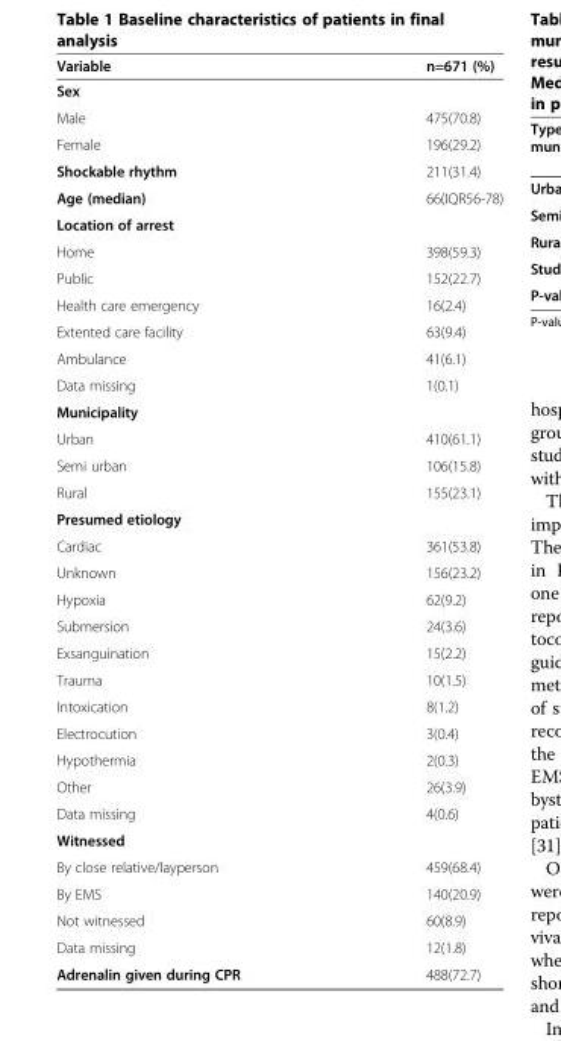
<table><thead><tr><td>Variable</td><td>n=671 (%)</td></tr></thead><tbody><tr><td colspan="2">Sex</td></tr><tr><td>Male</td><td>475(70.8)</td></tr><tr><td>Female</td><td>196(29.2)</td></tr><tr><td>Shockable rhythm</td><td>211(31.4)</td></tr><tr><td>Age (median)</td><td>66(IQR56-78)</td></tr><tr><td colspan="2">Location of arrest</td></tr><tr><td>Home</td><td>398(59.3)</td></tr><tr><td>Public</td><td>152(22.7)</td></tr><tr><td>Health care emergency</td><td>16(2.4)</td></tr><tr><td>Extented care facility</td><td>63(9.4)</td></tr><tr><td>Ambulance</td><td>41(6.1)</td></tr><tr><td>Data missing</td><td>1(0.1)</td></tr><tr><td colspan="2">Municipality</td></tr><tr><td>Urban</td><td>410(61.1)</td></tr><tr><td>Semi urban</td><td>106(15.8)</td></tr><tr><td>Rural</td><td>155(23.1)</td></tr><tr><td colspan="2">Presumed etiology</td></tr><tr><td>Cardiac</td><td>361(53.8)</td></tr><tr><td>Unknown</td><td>156(23.2)</td></tr><tr><td>Hypoxia</td><td>62(9.2)</td></tr><tr><td>Submersion</td><td>24(3.6)</td></tr><tr><td>Exsanguination</td><td>15(2.2)</td></tr><tr><td>Trauma</td><td>10(1.5)</td></tr><tr><td>Intoxication</td><td>8(1.2)</td></tr><tr><td>Electrocution</td><td>3(0.4)</td></tr><tr><td>Hypothermia</td><td>2(0.3)</td></tr><tr><td>Other</td><td>26(3.9)</td></tr><tr><td>Data missing</td><td>4(0.6)</td></tr><tr><td colspan="2">Witnessed</td></tr><tr><td>By close relative/layperson</td><td>459(68.4)</td></tr><tr><td>By EMS</td><td>140(20.9)</td></tr><tr><td>Not witnessed</td><td>60(8.9)</td></tr><tr><td>Data missing</td><td>12(1.8)</td></tr><tr><td>Adrenalin given during CPR</td><td>488(72.7)</td></tr></tbody></table>